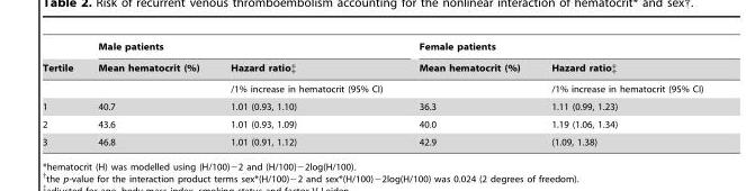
<table><thead><tr><td rowspan="2">Tertile</td><td colspan="2">Male patients</td><td colspan="2">Female patients</td></tr><tr><td>Mean hematocrit (%)</td><td>Hazard ratio‡</td><td>Mean hematocrit (%)</td><td>Hazard ratio‡</td></tr></thead><tbody><tr><td></td><td></td><td>/1% increase in hematocrit (95% CI)</td><td></td><td>/1% increase in hematocrit (95% CI)</td></tr><tr><td>1</td><td>40.7</td><td>1.01 (0.93, 1.10)</td><td>36.3</td><td>1.11 (0.99, 1.23)</td></tr><tr><td>2</td><td>43.6</td><td>1.01 (0.93, 1.09)</td><td>40.0</td><td>1.19 (1.06, 1.34)</td></tr><tr><td>3</td><td>46.8</td><td>1.01 (0.91, 1.12)</td><td>42.9</td><td>(1.09, 1.38)</td></tr></tbody></table>